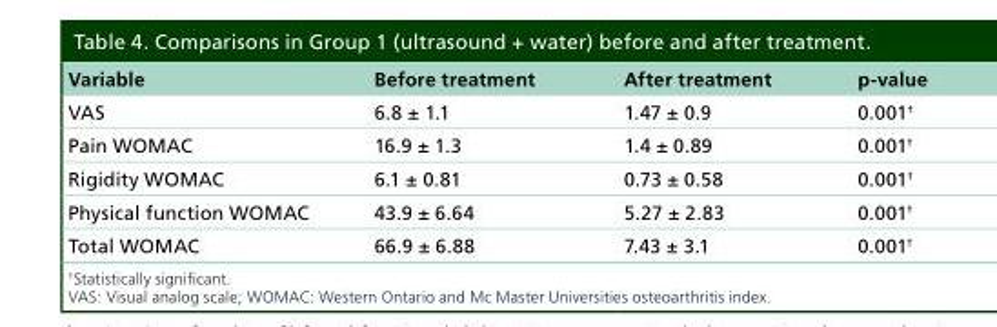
<table><thead><tr><td>Variable</td><td>Before treatment</td><td>After treatment</td><td>p-value</td></tr></thead><tbody><tr><td>VAS</td><td>6.8 ± 1.1</td><td>1.47 ± 0.9</td><td>0.001<sup>†</sup></td></tr><tr><td>Pain WOMAC</td><td>16.9 ± 1.3</td><td>1.4 ± 0.89</td><td>0.001<sup>†</sup></td></tr><tr><td>Rigidity WOMAC</td><td>6.1 ± 0.81</td><td>0.73 ± 0.58</td><td>0.001<sup>†</sup></td></tr><tr><td>Physical function WOMAC</td><td>43.9 ± 6.64</td><td>5.27 ± 2.83</td><td>0.001<sup>†</sup></td></tr><tr><td>Total WOMAC</td><td>66.9 ± 6.88</td><td>7.43 ± 3.1</td><td>0.001<sup>†</sup></td></tr></tbody></table>